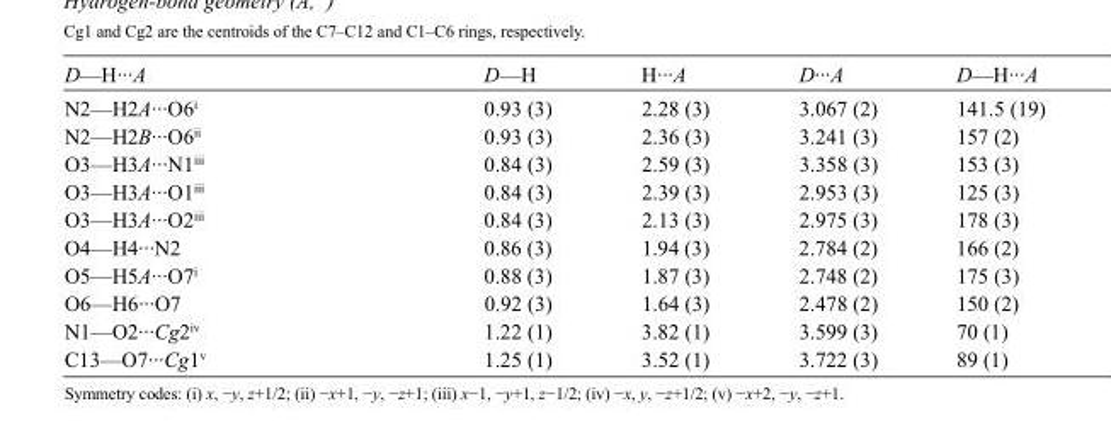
<table><tbody><tr><td>D—H···A</td><td>D—H</td><td>H···A</td><td>D···A</td><td>D—H···A</td></tr><tr><td>N2—H2A···O6<sup>i</sup></td><td>0.93 (3)</td><td>2.28 (3)</td><td>3.067 (2)</td><td>141.5 (19)</td></tr><tr><td>N2—H2B···O6<sup>ii</sup></td><td>0.93 (3)</td><td>2.36 (3)</td><td>3.241 (3)</td><td>157 (2)</td></tr><tr><td>O3—H3A···N1<sup>iii</sup></td><td>0.84 (3)</td><td>2.59 (3)</td><td>3.358 (3)</td><td>153 (3)</td></tr><tr><td>O3—H3A···O1<sup>iii</sup></td><td>0.84 (3)</td><td>2.39 (3)</td><td>2.953 (3)</td><td>125 (3)</td></tr><tr><td>O3—H3A···O2<sup>iii</sup></td><td>0.84 (3)</td><td>2.13 (3)</td><td>2.975 (3)</td><td>178 (3)</td></tr><tr><td>O4—H4···N2</td><td>0.86 (3)</td><td>1.94 (3)</td><td>2.784 (2)</td><td>166 (2)</td></tr><tr><td>O5—H5A···O7<sup>i</sup></td><td>0.88 (3)</td><td>1.87 (3)</td><td>2.748 (2)</td><td>175 (3)</td></tr><tr><td>O6—H6···O7</td><td>0.92 (3)</td><td>1.64 (3)</td><td>2.478 (2)</td><td>150 (2)</td></tr><tr><td>N1—O2···Cg2<sup>iv</sup></td><td>1.22 (1)</td><td>3.82 (1)</td><td>3.599 (3)</td><td>70 (1)</td></tr><tr><td>C13—O7···Cg1<sup>v</sup></td><td>1.25 (1)</td><td>3.52 (1)</td><td>3.722 (3)</td><td>89 (1)</td></tr></tbody></table>